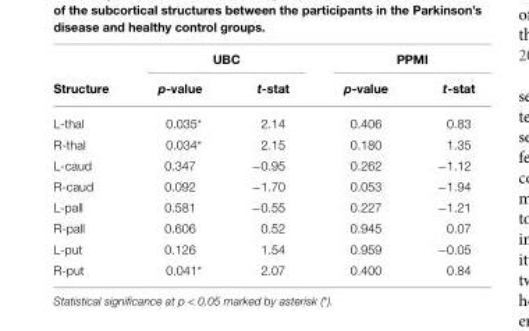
<table><thead><tr><td rowspan="2">Structure</td><td colspan="2">UBC</td><td colspan="2">PPMI</td></tr><tr><td>p-value</td><td>t-stat</td><td>p-value</td><td>t-stat</td></tr></thead><tbody><tr><td>L-thal</td><td>0.035*</td><td>2.14</td><td>0.406</td><td>0.83</td></tr><tr><td>R-thal</td><td>0.034*</td><td>2.15</td><td>0.180</td><td>1.35</td></tr><tr><td>L-caud</td><td>0.347</td><td>−0.95</td><td>0.262</td><td>−1.12</td></tr><tr><td>R-caud</td><td>0.092</td><td>−1.70</td><td>0.053</td><td>−1.94</td></tr><tr><td>L-pall</td><td>0.581</td><td>−0.55</td><td>0.227</td><td>−1.21</td></tr><tr><td>R-pall</td><td>0.606</td><td>0.52</td><td>0.945</td><td>0.07</td></tr><tr><td>L-put</td><td>0.126</td><td>1.54</td><td>0.959</td><td>−0.05</td></tr><tr><td>R-put</td><td>0.041*</td><td>2.07</td><td>0.400</td><td>0.84</td></tr></tbody></table>